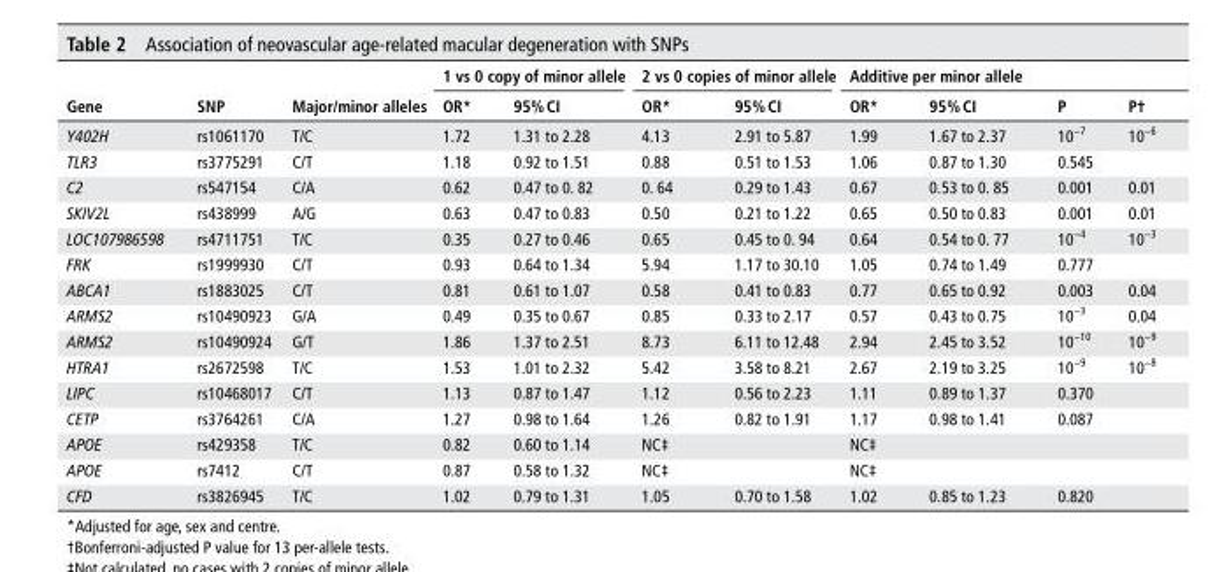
<table><thead><tr><td rowspan="2">Gene</td><td rowspan="2">snP</td><td rowspan="2">Major/minor alleles</td><td colspan="2">1 vs 0 copy of minor allele</td><td colspan="2">2 vs 0 copies of minor allele</td><td colspan="4">Additive per minor allele</td></tr><tr><td>or*</td><td>95% CI</td><td>or*</td><td>95% CI</td><td>or*</td><td>95% CI</td><td>P</td><td>P†</td></tr></thead><tbody><tr><td>Y402H</td><td>rs1061170</td><td>T/C</td><td>1.72</td><td>1.31 to 2.28</td><td>4.13</td><td>2.91 to 5.87</td><td>1.99</td><td>1.67 to 2.37</td><td>10<sup>−7</sup></td><td>10<sup>−6</sup></td></tr><tr><td>TLR3</td><td>rs3775291</td><td>C/T</td><td>1.18</td><td>0.92 to 1.51</td><td>0.88</td><td>0.51 to 1.53</td><td>1.06</td><td>0.87 to 1.30</td><td>0.545</td><td></td></tr><tr><td>C2</td><td>rs547154</td><td>C/A</td><td>0.62</td><td>0.47 to 0. 82</td><td>0. 64</td><td>0.29 to 1.43</td><td>0.67</td><td>0.53 to 0. 85</td><td>0.001</td><td>0.01</td></tr><tr><td>SKIV2L</td><td>rs438999</td><td>A/G</td><td>0.63</td><td>0.47 to 0.83</td><td>0.50</td><td>0.21 to 1.22</td><td>0.65</td><td>0.50 to 0.83</td><td>0.001</td><td>0.01</td></tr><tr><td>LOC107986598</td><td>rs4711751</td><td>T/C</td><td>0.35</td><td>0.27 to 0.46</td><td>0.65</td><td>0.45 to 0. 94</td><td>0.64</td><td>0.54 to 0. 77</td><td>10<sup>−4</sup></td><td>10<sup>−3</sup></td></tr><tr><td>FRK</td><td>rs1999930</td><td>C/T</td><td>0.93</td><td>0.64 to 1.34</td><td>5.94</td><td>1.17 to 30.10</td><td>1.05</td><td>0.74 to 1.49</td><td>0.777</td><td></td></tr><tr><td>ABCA1</td><td>rs1883025</td><td>C/T</td><td>0.81</td><td>0.61 to 1.07</td><td>0.58</td><td>0.41 to 0.83</td><td>0.77</td><td>0.65 to 0.92</td><td>0.003</td><td>0.04</td></tr><tr><td>ARMS2</td><td>rs10490923</td><td>G/A</td><td>0.49</td><td>0.35 to 0.67</td><td>0.85</td><td>0.33 to 2.17</td><td>0.57</td><td>0.43 to 0.75</td><td>10<sup>−3</sup></td><td>0.04</td></tr><tr><td>ARMS2</td><td>rs10490924</td><td>G/T</td><td>1.86</td><td>1.37 to 2.51</td><td>8.73</td><td>6.11 to 12.48</td><td>2.94</td><td>2.45 to 3.52</td><td>10<sup>−10</sup></td><td>10<sup>−9</sup></td></tr><tr><td>HTRA1</td><td>rs2672598</td><td>T/C</td><td>1.53</td><td>1.01 to 2.32</td><td>5.42</td><td>3.58 to 8.21</td><td>2.67</td><td>2.19 to 3.25</td><td>10<sup>−9</sup></td><td>10<sup>−8</sup></td></tr><tr><td>LIPC</td><td>rs10468017</td><td>C/T</td><td>1.13</td><td>0.87 to 1.47</td><td>1.12</td><td>0.56 to 2.23</td><td>1.11</td><td>0.89 to 1.37</td><td>0.370</td><td></td></tr><tr><td>CETP</td><td>rs3764261</td><td>C/A</td><td>1.27</td><td>0.98 to 1.64</td><td>1.26</td><td>0.82 to 1.91</td><td>1.17</td><td>0.98 to 1.41</td><td>0.087</td><td></td></tr><tr><td>APOE</td><td>rs429358</td><td>T/C</td><td>0.82</td><td>0.60 to 1.14</td><td>NC‡</td><td></td><td>NC‡</td><td></td><td></td><td></td></tr><tr><td>APOE</td><td>rs7412</td><td>C/T</td><td>0.87</td><td>0.58 to 1.32</td><td>NC‡</td><td></td><td>NC‡</td><td></td><td></td><td></td></tr><tr><td>CFD</td><td>rs3826945</td><td>T/C</td><td>1.02</td><td>0.79 to 1.31</td><td>1.05</td><td>0.70 to 1.58</td><td>1.02</td><td>0.85 to 1.23</td><td>0.820</td><td></td></tr></tbody></table>